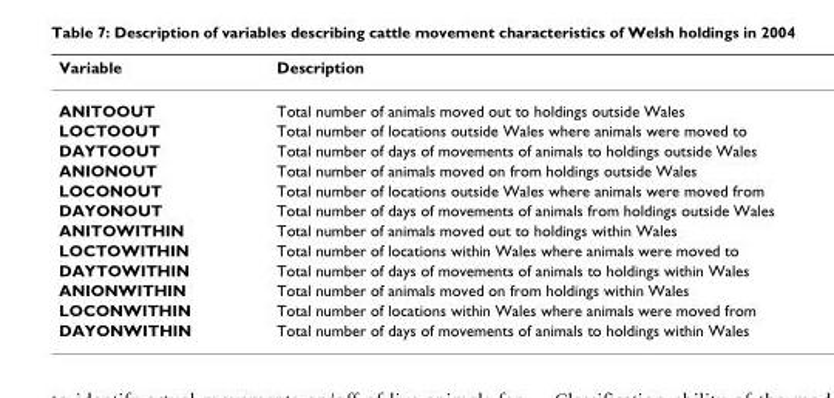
<table><thead><tr><td>Variable</td><td>Description</td></tr></thead><tbody><tr><td>ANITOOUT</td><td>Total number of animals moved out to holdings outside Wales</td></tr><tr><td>LOCTOOUT</td><td>Total number of locations outside Wales where animals were moved to</td></tr><tr><td>DAYTOOUT</td><td>Total number of days of movements of animals to holdings outside Wales</td></tr><tr><td>ANIONOUT</td><td>Total number of animals moved on from holdings outside Wales</td></tr><tr><td>LOCONOUT</td><td>Total number of locations outside Wales where animals were moved from</td></tr><tr><td>DAYONOUT</td><td>Total number of days of movements of animals from holdings outside Wales</td></tr><tr><td>ANITOWITHIN</td><td>Total number of animals moved out to holdings within Wales</td></tr><tr><td>LOCTOWITHIN</td><td>Total number of locations within Wales where animals were moved to</td></tr><tr><td>DAYTOWITHIN</td><td>Total number of days of movements of animals to holdings within Wales</td></tr><tr><td>ANIONWITHIN</td><td>Total number of animals moved on from holdings within Wales</td></tr><tr><td>LOCONWITHIN</td><td>Total number of locations within Wales where animals were moved from</td></tr><tr><td>DAYONWITHIN</td><td>Total number of days of movements of animals to holdings within Wales</td></tr></tbody></table>